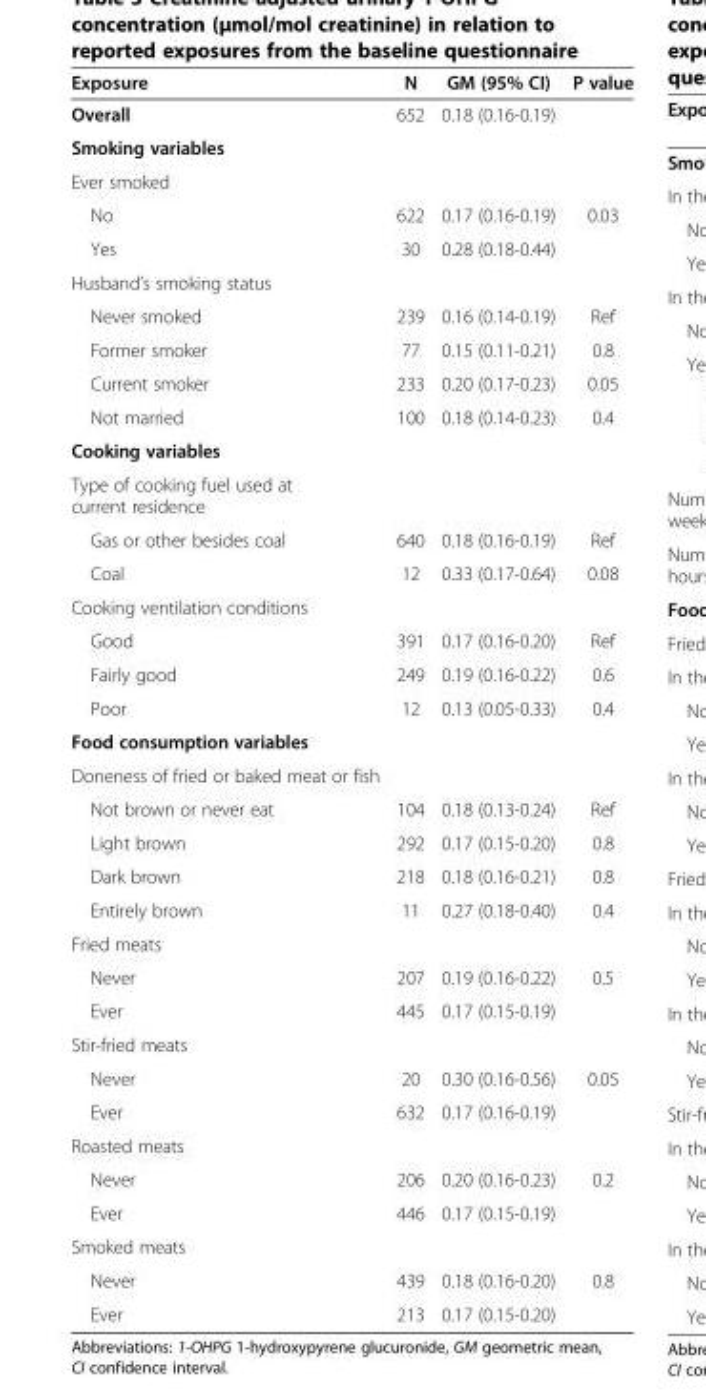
<table><thead><tr><td>Exposure</td><td>N</td><td>GM (95% CI)</td><td>P value</td></tr></thead><tbody><tr><td>Overall</td><td>652</td><td>0.18 (0.16-0.19)</td><td></td></tr><tr><td colspan="4">Smoking variables</td></tr><tr><td colspan="4">Ever smoked</td></tr><tr><td>No</td><td>622</td><td>0.17 (0.16-0.19)</td><td>0.03</td></tr><tr><td>Yes</td><td>30</td><td>0.28 (0.18-0.44)</td><td></td></tr><tr><td colspan="4">Husband’s smoking status</td></tr><tr><td>Never smoked</td><td>239</td><td>0.16 (0.14-0.19)</td><td>Ref</td></tr><tr><td>Former smoker</td><td>77</td><td>0.15 (0.11-0.21)</td><td>0.8</td></tr><tr><td>Current smoker</td><td>233</td><td>0.20 (0.17-0.23)</td><td>0.05</td></tr><tr><td>Not married</td><td>100</td><td>0.18 (0.14-0.23)</td><td>0.4</td></tr><tr><td colspan="4">Cooking variables</td></tr><tr><td colspan="4">Type of cooking fuel used at current residence</td></tr><tr><td>Gas or other besides coal</td><td>640</td><td>0.18 (0.16-0.19)</td><td>Ref</td></tr><tr><td>Coal</td><td>12</td><td>0.33 (0.17-0.64)</td><td>0.08</td></tr><tr><td colspan="4">Cooking ventilation conditions</td></tr><tr><td>Good</td><td>391</td><td>0.17 (0.16-0.20)</td><td>Ref</td></tr><tr><td>Fairly good</td><td>249</td><td>0.19 (0.16-0.22)</td><td>0.6</td></tr><tr><td>Poor</td><td>12</td><td>0.13 (0.05-0.33)</td><td>0.4</td></tr><tr><td colspan="4">Food consumption variables</td></tr><tr><td colspan="4">Doneness of fried or baked meat or fish</td></tr><tr><td>Not brown or never eat</td><td>104</td><td>0.18 (0.13-0.24)</td><td>Ref</td></tr><tr><td>Light brown</td><td>292</td><td>0.17 (0.15-0.20)</td><td>0.8</td></tr><tr><td>Dark brown</td><td>218</td><td>0.18 (0.16-0.21)</td><td>0.8</td></tr><tr><td>Entirely brown</td><td>11</td><td>0.27 (0.18-0.40)</td><td>0.4</td></tr><tr><td colspan="4">Fried meats</td></tr><tr><td>Never</td><td>207</td><td>0.19 (0.16-0.22)</td><td>0.5</td></tr><tr><td>Ever</td><td>445</td><td>0.17 (0.15-0.19)</td><td></td></tr><tr><td colspan="4">Stir-fried meats</td></tr><tr><td>Never</td><td>20</td><td>0.30 (0.16-0.56)</td><td>0.05</td></tr><tr><td>Ever</td><td>632</td><td>0.17 (0.16-0.19)</td><td></td></tr><tr><td colspan="4">Roasted meats</td></tr><tr><td>Never</td><td>206</td><td>0.20 (0.16-0.23)</td><td>0.2</td></tr><tr><td>Ever</td><td>446</td><td>0.17 (0.15-0.19)</td><td></td></tr><tr><td colspan="4">Smoked meats</td></tr><tr><td>Never</td><td>439</td><td>0.18 (0.16-0.20)</td><td>0.8</td></tr><tr><td>Ever</td><td>213</td><td>0.17 (0.15-0.20)</td><td></td></tr></tbody></table>